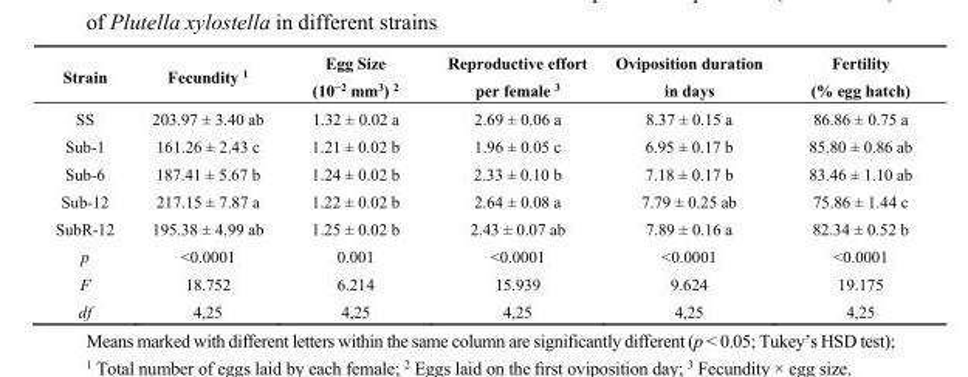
<table><thead><tr><td>Strain</td><td>Fecundity <sup>1</sup></td><td>Egg Size (10<sup>−2</sup> mm<sup>3</sup>) <sup>2</sup></td><td>Reproductive effort per female <sup>3</sup></td><td>Oviposition duration in days</td><td>Fertility (% egg hatch)</td></tr></thead><tbody><tr><td>SS</td><td>203.97 ± 3.40 ab</td><td>1.32 ± 0.02 a</td><td>2.69 ± 0.06 a</td><td>8.37 ± 0.15 a</td><td>86.86 ± 0.75 a</td></tr><tr><td>Sub-1</td><td>161.26 ± 2.43 c</td><td>1.21 ± 0.02 b</td><td>1.96 ± 0.05 c</td><td>6.95 ± 0.17 b</td><td>85.80 ± 0.86 ab</td></tr><tr><td>Sub-6</td><td>187.41 ± 5.67 b</td><td>1.24 ± 0.02 b</td><td>2.33 ± 0.10 b</td><td>7.18 ± 0.17 b</td><td>83.46 ± 1.10 ab</td></tr><tr><td>Sub-12</td><td>217.15 ± 7.87 a</td><td>1.22 ± 0.02 b</td><td>2.64 ± 0.08 a</td><td>7.79 ± 0.25 ab</td><td>75.86 ± 1.44 c</td></tr><tr><td>SubR-12</td><td>195.38 ± 4.99 ab</td><td>1.25 ± 0.02 b</td><td>2.43 ± 0.07 ab</td><td>7.89 ± 0.16 a</td><td>82.34 ± 0.52 b</td></tr><tr><td>p</td><td>&lt;0.0001</td><td>0.001</td><td>&lt;0.0001</td><td>&lt;0.0001</td><td>&lt;0.0001</td></tr><tr><td>F</td><td>18.752</td><td>6.214</td><td>15.939</td><td>9.624</td><td>19.175</td></tr><tr><td>df</td><td>4,25</td><td>4,25</td><td>4,25</td><td>4,25</td><td>4,25</td></tr></tbody></table>